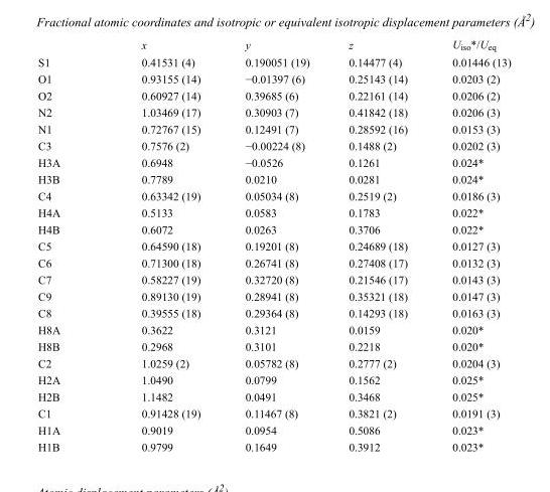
<table><thead><tr><td></td><td>x</td><td>y</td><td>z</td><td>U<sub>iso</sub>*/U<sub>eq</sub></td></tr></thead><tbody><tr><td>S1</td><td>0.41531 (4)</td><td>0.190051 (19)</td><td>0.14477 (4)</td><td>0.01446 (13)</td></tr><tr><td>O1</td><td>0.93155 (14)</td><td>−0.01397 (6)</td><td>0.25143 (14)</td><td>0.0203 (2)</td></tr><tr><td>O2</td><td>0.60927 (14)</td><td>0.39685 (6)</td><td>0.22161 (14)</td><td>0.0206 (2)</td></tr><tr><td>N2</td><td>1.03469 (17)</td><td>0.30903 (7)</td><td>0.41842 (18)</td><td>0.0206 (3)</td></tr><tr><td>N1</td><td>0.72767 (15)</td><td>0.12491 (7)</td><td>0.28592 (16)</td><td>0.0153 (3)</td></tr><tr><td>C3</td><td>0.7576 (2)</td><td>−0.00224 (8)</td><td>0.1488 (2)</td><td>0.0202 (3)</td></tr><tr><td>H3A</td><td>0.6948</td><td>−0.0526</td><td>0.1261</td><td>0.024*</td></tr><tr><td>H3B</td><td>0.7789</td><td>0.0210</td><td>0.0281</td><td>0.024*</td></tr><tr><td>C4</td><td>0.63342 (19)</td><td>0.05034 (8)</td><td>0.2519 (2)</td><td>0.0186 (3)</td></tr><tr><td>H4A</td><td>0.5133</td><td>0.0583</td><td>0.1783</td><td>0.022*</td></tr><tr><td>H4B</td><td>0.6072</td><td>0.0263</td><td>0.3706</td><td>0.022*</td></tr><tr><td>C5</td><td>0.64590 (18)</td><td>0.19201 (8)</td><td>0.24689 (18)</td><td>0.0127 (3)</td></tr><tr><td>C6</td><td>0.71300 (18)</td><td>0.26741 (8)</td><td>0.27408 (17)</td><td>0.0132 (3)</td></tr><tr><td>C7</td><td>0.58227 (19)</td><td>0.32720 (8)</td><td>0.21546 (17)</td><td>0.0143 (3)</td></tr><tr><td>C9</td><td>0.89130 (19)</td><td>0.28941 (8)</td><td>0.35321 (18)</td><td>0.0147 (3)</td></tr><tr><td>C8</td><td>0.39555 (18)</td><td>0.29364 (8)</td><td>0.14293 (18)</td><td>0.0163 (3)</td></tr><tr><td>H8A</td><td>0.3622</td><td>0.3121</td><td>0.0159</td><td>0.020*</td></tr><tr><td>H8B</td><td>0.2968</td><td>0.3101</td><td>0.2218</td><td>0.020*</td></tr><tr><td>C2</td><td>1.0259 (2)</td><td>0.05782 (8)</td><td>0.2777 (2)</td><td>0.0204 (3)</td></tr><tr><td>H2A</td><td>1.0490</td><td>0.0799</td><td>0.1562</td><td>0.025*</td></tr><tr><td>H2B</td><td>1.1482</td><td>0.0491</td><td>0.3468</td><td>0.025*</td></tr><tr><td>C1</td><td>0.91428 (19)</td><td>0.11467 (8)</td><td>0.3821 (2)</td><td>0.0191 (3)</td></tr><tr><td>H1A</td><td>0.9019</td><td>0.0954</td><td>0.5086</td><td>0.023*</td></tr><tr><td>H1B</td><td>0.9799</td><td>0.1649</td><td>0.3912</td><td>0.023*</td></tr></tbody></table>